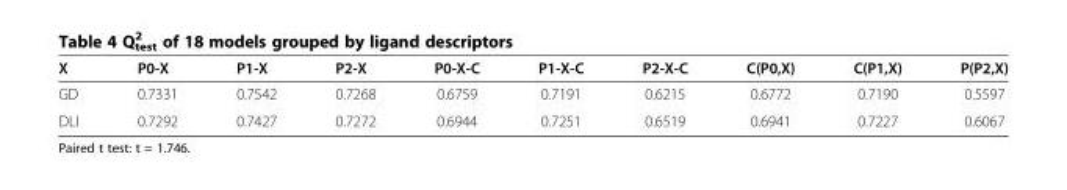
<table><thead><tr><td>X</td><td>P0-X</td><td>P1-X</td><td>P2-X</td><td>P0-X-C</td><td>P1-X-C</td><td>P2-X-C</td><td>C(P0,X)</td><td>C(P1,X)</td><td>P(P2,X)</td></tr></thead><tbody><tr><td>GD</td><td>0.7331</td><td>0.7542</td><td>0.7268</td><td>0.6759</td><td>0.7191</td><td>0.6215</td><td>0.6772</td><td>0.7190</td><td>0.5597</td></tr><tr><td>DLI</td><td>0.7292</td><td>0.7427</td><td>0.7272</td><td>0.6944</td><td>0.7251</td><td>0.6519</td><td>0.6941</td><td>0.7227</td><td>0.6067</td></tr></tbody></table>